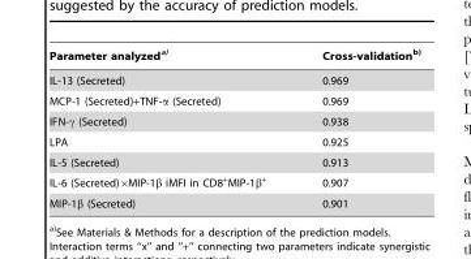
<table><thead><tr><td>Parameter analyzeda)</td><td>Cross-validationb)</td></tr></thead><tbody><tr><td>IL-13 (Secreted)</td><td>0.969</td></tr><tr><td>MCP-1 (Secreted)+TNF-α (Secreted)</td><td>0.969</td></tr><tr><td>IFN-γ (Secreted)</td><td>0.938</td></tr><tr><td>LPA</td><td>0.925</td></tr><tr><td>IL-5 (Secreted)</td><td>0.913</td></tr><tr><td>IL-6 (Secreted)×MIP-1β iMFI in CD8<sup>+</sup>MIP-1β<sup>+</sup></td><td>0.907</td></tr><tr><td>MIP-1β (Secreted)</td><td>0.901</td></tr></tbody></table>